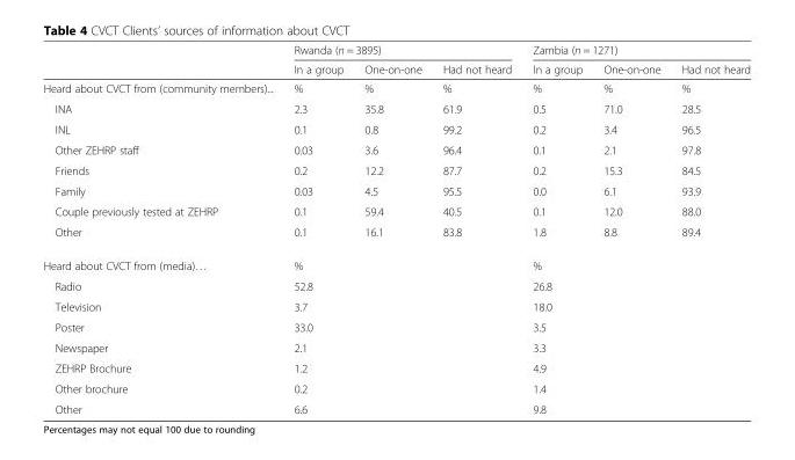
<table><thead><tr><td rowspan="2"></td><td colspan="3">Rwanda (n = 3895)</td><td colspan="3">Zambia (n = 1271)</td></tr><tr><td>In a group</td><td>One-on-one</td><td>Had not heard</td><td>In a group</td><td>One-on-one</td><td>Had not heard</td></tr></thead><tbody><tr><td>Heard about CVCT from (community members)...</td><td>%</td><td>%</td><td>%</td><td>%</td><td>%</td><td>%</td></tr><tr><td>INA</td><td>2.3</td><td>35.8</td><td>61.9</td><td>0.5</td><td>71.0</td><td>28.5</td></tr><tr><td>INL</td><td>0.1</td><td>0.8</td><td>99.2</td><td>0.2</td><td>3.4</td><td>96.5</td></tr><tr><td>Other ZEHRP staff</td><td>0.03</td><td>3.6</td><td>96.4</td><td>0.1</td><td>2.1</td><td>97.8</td></tr><tr><td>Friends</td><td>0.2</td><td>12.2</td><td>87.7</td><td>0.2</td><td>15.3</td><td>84.5</td></tr><tr><td>Family</td><td>0.03</td><td>4.5</td><td>95.5</td><td>0.0</td><td>6.1</td><td>93.9</td></tr><tr><td>Couple previously tested at ZEHRP</td><td>0.1</td><td>59.4</td><td>40.5</td><td>0.1</td><td>12.0</td><td>88.0</td></tr><tr><td>Other</td><td>0.1</td><td>16.1</td><td>83.8</td><td>1.8</td><td>8.8</td><td>89.4</td></tr><tr><td>Heard about CVCT from (media)…</td><td colspan="3">%</td><td colspan="3">%</td></tr><tr><td>Radio</td><td colspan="3">52.8</td><td colspan="3">26.8</td></tr><tr><td>Television</td><td colspan="3">3.7</td><td colspan="3">18.0</td></tr><tr><td>Poster</td><td colspan="3">33.0</td><td colspan="3">3.5</td></tr><tr><td>Newspaper</td><td colspan="3">2.1</td><td colspan="3">3.3</td></tr><tr><td>ZEHRP Brochure</td><td colspan="3">1.2</td><td colspan="3">4.9</td></tr><tr><td>Other brochure</td><td colspan="3">0.2</td><td colspan="3">1.4</td></tr><tr><td>Other</td><td colspan="3">6.6</td><td colspan="3">9.8</td></tr></tbody></table>